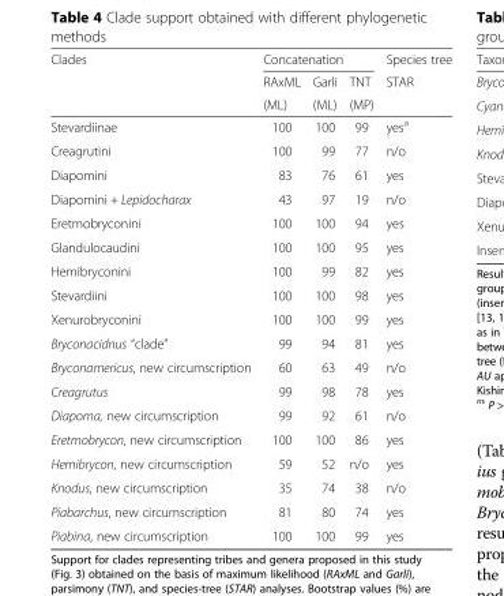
<table><thead><tr><td rowspan="3">Clades</td><td colspan="3">Concatenation</td><td rowspan="3">Species tree STAR</td></tr><tr><td rowspan="2">RAxML (ML)</td><td rowspan="2">Garli (ML)</td><td rowspan="2">TNT (MP)</td></tr><tr></tr></thead><tbody><tr><td>Stevardiinae</td><td>100</td><td>100</td><td>99</td><td>yes<sup>a</sup></td></tr><tr><td>Creagrutini</td><td>100</td><td>99</td><td>77</td><td>n/o</td></tr><tr><td>Diapomini</td><td>83</td><td>76</td><td>61</td><td>yes</td></tr><tr><td>Diapomini + Lepidocharax</td><td>43</td><td>97</td><td>19</td><td>n/o</td></tr><tr><td>Eretmobryconini</td><td>100</td><td>100</td><td>94</td><td>yes</td></tr><tr><td>Glandulocaudini</td><td>100</td><td>100</td><td>95</td><td>yes</td></tr><tr><td>Hemibryconini</td><td>100</td><td>99</td><td>82</td><td>yes</td></tr><tr><td>Stevardiini</td><td>100</td><td>100</td><td>98</td><td>yes</td></tr><tr><td>Xenurobryconini</td><td>100</td><td>100</td><td>99</td><td>yes</td></tr><tr><td>Bryconacidnus “clade”</td><td>99</td><td>94</td><td>81</td><td>yes</td></tr><tr><td>Bryconamericus, new circumscription</td><td>60</td><td>63</td><td>49</td><td>n/o</td></tr><tr><td>Creagrutus</td><td>99</td><td>98</td><td>78</td><td>yes</td></tr><tr><td>Diapoma, new circumscription</td><td>99</td><td>92</td><td>61</td><td>n/o</td></tr><tr><td>Eretmobrycon, new circumscription</td><td>100</td><td>100</td><td>86</td><td>yes</td></tr><tr><td>Hemibrycon, new circumscription</td><td>59</td><td>52</td><td>n/o</td><td>yes</td></tr><tr><td>Knodus, new circumscription</td><td>35</td><td>74</td><td>38</td><td>n/o</td></tr><tr><td>Piabarchus, new circumscription</td><td>81</td><td>80</td><td>74</td><td>yes</td></tr><tr><td>Piabina, new circumscription</td><td>100</td><td>100</td><td>99</td><td>yes</td></tr></tbody></table>